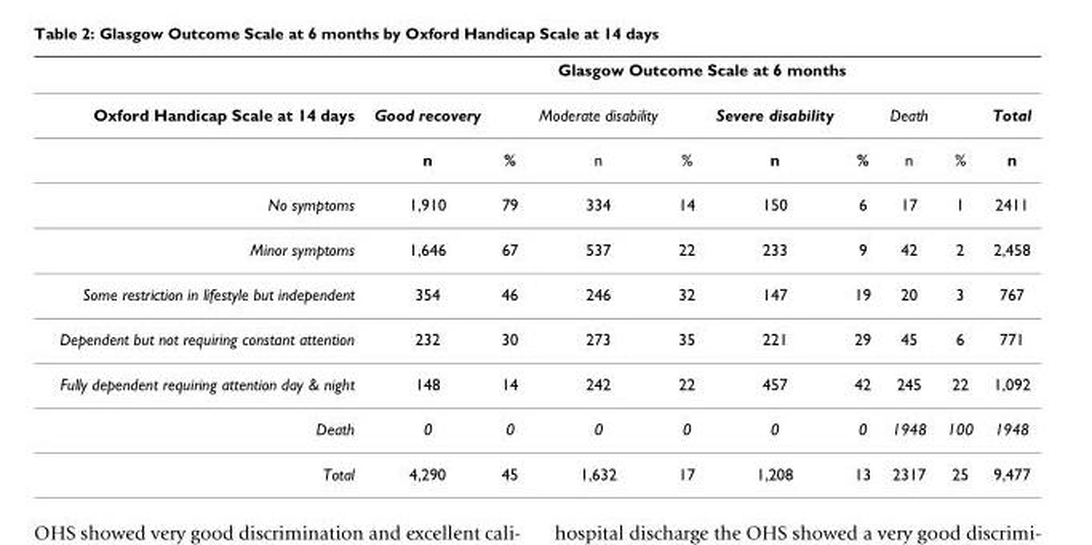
<table><thead><tr><td rowspan="2">Oxford Handicap Scale at 14 days</td><td colspan="9">Glasgow Outcome Scale at 6 months</td></tr><tr><td>Good recovery</td><td></td><td>Moderate disability</td><td></td><td>Severe disability</td><td></td><td>Death</td><td></td><td>Total</td></tr></thead><tbody><tr><td></td><td>n</td><td>%</td><td>n</td><td>%</td><td>n</td><td>%</td><td>n</td><td>%</td><td>n</td></tr><tr><td>No symptoms</td><td>1,910</td><td>79</td><td>334</td><td>14</td><td>150</td><td>6</td><td>17</td><td>1</td><td>2411</td></tr><tr><td>Minor symptoms</td><td>1,646</td><td>67</td><td>537</td><td>22</td><td>233</td><td>9</td><td>42</td><td>2</td><td>2,458</td></tr><tr><td>Some restriction in lifestyle but independent</td><td>354</td><td>46</td><td>246</td><td>32</td><td>147</td><td>19</td><td>20</td><td>3</td><td>767</td></tr><tr><td>Dependent but not requiring constant attention</td><td>232</td><td>30</td><td>273</td><td>35</td><td>221</td><td>29</td><td>45</td><td>6</td><td>771</td></tr><tr><td>Fully dependent requiring attention day &amp; night</td><td>148</td><td>14</td><td>242</td><td>22</td><td>457</td><td>42</td><td>245</td><td>22</td><td>1,092</td></tr><tr><td>Death</td><td>0</td><td>0</td><td>0</td><td>0</td><td>0</td><td>0</td><td>1948</td><td>100</td><td>1948</td></tr><tr><td>Total</td><td>4,290</td><td>45</td><td>1,632</td><td>17</td><td>1,208</td><td>13</td><td>2317</td><td>25</td><td>9,477</td></tr></tbody></table>